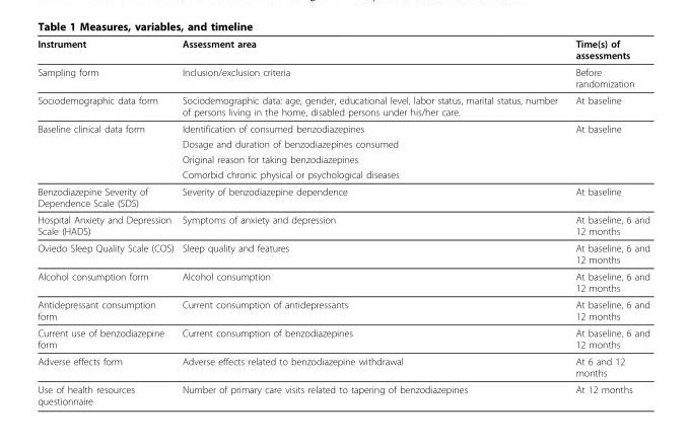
<table><thead><tr><td>Instrument</td><td>Assessment area</td><td>Time(s) of assessments</td></tr></thead><tbody><tr><td>Sampling form</td><td>Inclusion/exclusion criteria</td><td>Before randomization</td></tr><tr><td>Sociodemographic data form</td><td>Sociodemographic data: age, gender, educational level, labor status, marital status, number of persons living in the home, disabled persons under his/her care.</td><td>At baseline</td></tr><tr><td rowspan="4">Baseline clinical data form</td><td>Identification of consumed benzodiazepines</td><td>At baseline</td></tr><tr><td>Dosage and duration of benzodiazepines consumed</td><td></td></tr><tr><td>Original reason for taking benzodiazepines</td><td></td></tr><tr><td>Comorbid chronic physical or psychological diseases</td><td></td></tr><tr><td>Benzodiazepine Severity of Dependence Scale (SDS)</td><td>Severity of benzodiazepine dependence</td><td>At baseline</td></tr><tr><td>Hospital Anxiety and Depression Scale (HADS)</td><td>Symptoms of anxiety and depression</td><td>At baseline, 6 and 12 months</td></tr><tr><td>Oviedo Sleep Quality Scale (COS)</td><td>Sleep quality and features</td><td>At baseline, 6 and 12 months</td></tr><tr><td>Alcohol consumption form</td><td>Alcohol consumption</td><td>At baseline, 6 and 12 months</td></tr><tr><td>Antidepressant consumption form</td><td>Current consumption of antidepressants</td><td>At baseline, 6 and 12 months</td></tr><tr><td>Current use of benzodiazepine form</td><td>Current consumption of benzodiazepines</td><td>At baseline, 6 and 12 months</td></tr><tr><td>Adverse effects form</td><td>Adverse effects related to benzodiazepine withdrawal</td><td>At 6 and 12 months</td></tr><tr><td>Use of health resources questionnaire</td><td>Number of primary care visits related to tapering of benzodiazepines</td><td>At 12 months</td></tr></tbody></table>